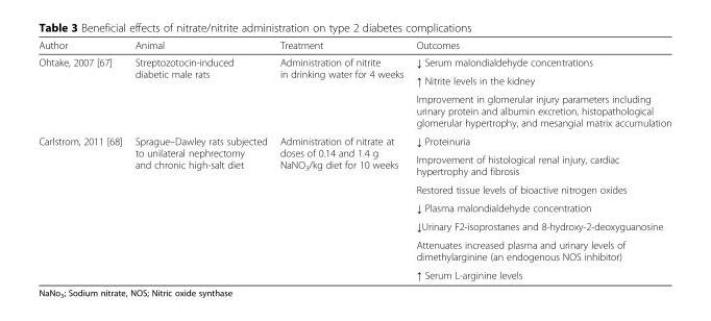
<table><thead><tr><td>Author</td><td>Animal</td><td>Treatment</td><td>Outcomes</td></tr></thead><tbody><tr><td rowspan="3">Ohtake, 2007 [67]</td><td rowspan="3">Streptozotocin-induced diabetic male rats</td><td rowspan="3">Administration of nitrite in drinking water for 4 weeks</td><td>↓ Serum malondialdehyde concentrations</td></tr><tr><td>↑ Nitrite levels in the kidney</td></tr><tr><td>Improvement in glomerular injury parameters including urinary protein and albumin excretion, histopathological glomerular hypertrophy, and mesangial matrix accumulation</td></tr><tr><td rowspan="7">Carlstrom, 2011 [68]</td><td rowspan="7">Sprague–Dawley rats subjected to unilateral nephrectomy and chronic high-salt diet</td><td rowspan="7">Administration of nitrate at doses of 0.14 and 1.4 g NaNO<sub>3</sub>/kg diet for 10 weeks</td><td>↓ Proteinuria</td></tr><tr><td>Improvement of histological renal injury, cardiac hypertrophy and fibrosis</td></tr><tr><td>Restored tissue levels of bioactive nitrogen oxides</td></tr><tr><td>↓ Plasma malondialdehyde concentration</td></tr><tr><td>↓Urinary F2-isoprostanes and 8-hydroxy-2-deoxyguanosine</td></tr><tr><td>Attenuates increased plasma and urinary levels of dimethylarginine (an endogenous NOS inhibitor)</td></tr><tr><td>↑ Serum L-arginine levels</td></tr></tbody></table>